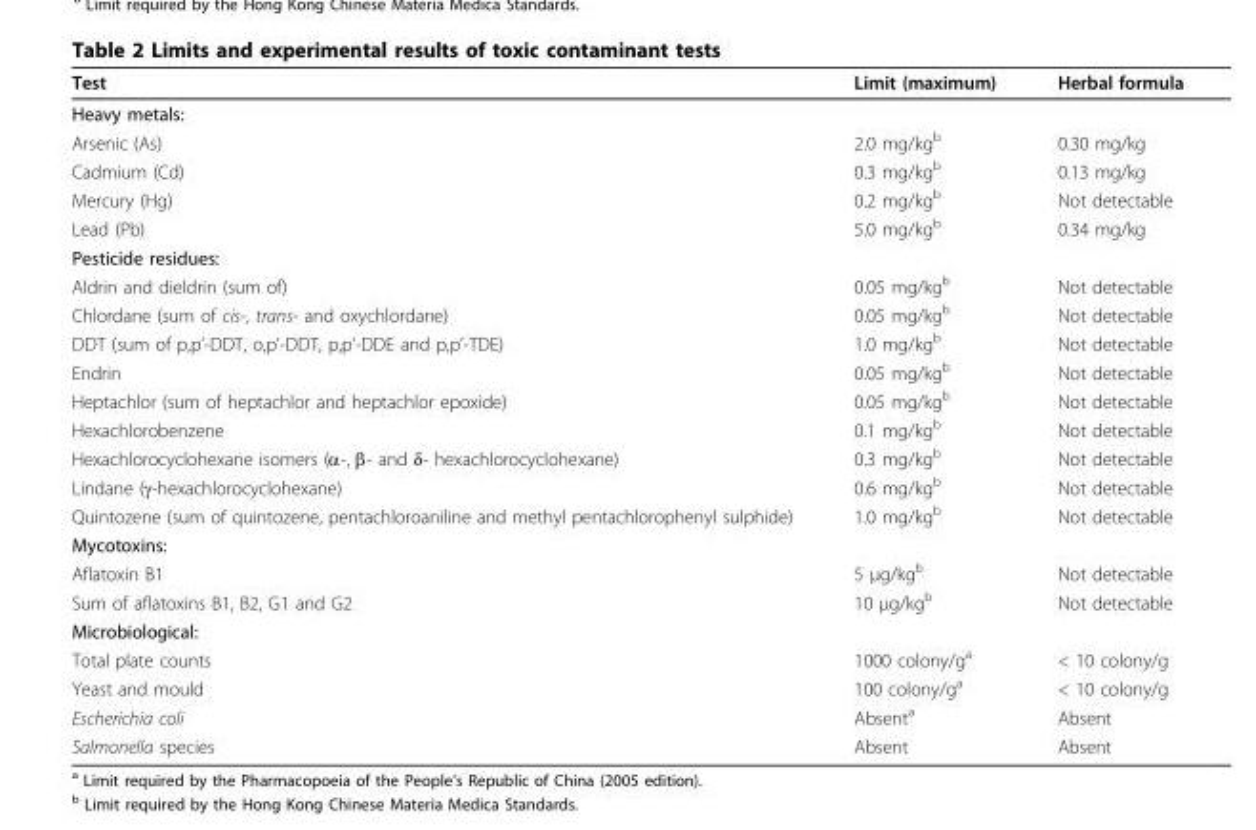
<table><thead><tr><td>Test</td><td>Limit (maximum)</td><td>Herbal formula</td></tr></thead><tbody><tr><td colspan="3">Heavy metals:</td></tr><tr><td>Arsenic (As)</td><td>2.0 mg/kg<sup>b</sup></td><td>0.30 mg/kg</td></tr><tr><td>Cadmium (Cd)</td><td>0.3 mg/kg<sup>b</sup></td><td>0.13 mg/kg</td></tr><tr><td>Mercury (Hg)</td><td>0.2 mg/kg<sup>b</sup></td><td>Not detectable</td></tr><tr><td>Lead (Pb)</td><td>5.0 mg/kg<sup>b</sup></td><td>0.34 mg/kg</td></tr><tr><td colspan="3">Pesticide residues:</td></tr><tr><td>Aldrin and dieldrin (sum of)</td><td>0.05 mg/kg<sup>b</sup></td><td>Not detectable</td></tr><tr><td>Chlordane (sum of cis-, trans- and oxychlordane)</td><td>0.05 mg/kg<sup>b</sup></td><td>Not detectable</td></tr><tr><td>DDT (sum of p,p’-DDT, o,p’-DDT, p,p’-DDE and p,p’-TDE)</td><td>1.0 mg/kg<sup>b</sup></td><td>Not detectable</td></tr><tr><td>Endrin</td><td>0.05 mg/kg<sup>b</sup></td><td>Not detectable</td></tr><tr><td>Heptachlor (sum of heptachlor and heptachlor epoxide)</td><td>0.05 mg/kg<sup>b</sup></td><td>Not detectable</td></tr><tr><td>Hexachlorobenzene</td><td>0.1 mg/kg<sup>b</sup></td><td>Not detectable</td></tr><tr><td>Hexachlorocyclohexane isomers (α-, β- and δ- hexachlorocyclohexane)</td><td>0.3 mg/kg<sup>b</sup></td><td>Not detectable</td></tr><tr><td>Lindane (γ-hexachlorocyclohexane)</td><td>0.6 mg/kg<sup>b</sup></td><td>Not detectable</td></tr><tr><td>Quintozene (sum of quintozene, pentachloroaniline and methyl pentachlorophenyl sulphide)</td><td>1.0 mg/kg<sup>b</sup></td><td>Not detectable</td></tr><tr><td colspan="3">Mycotoxins:</td></tr><tr><td>Aflatoxin B1</td><td>5 μg/kg<sup>b</sup></td><td>Not detectable</td></tr><tr><td>Sum of aflatoxins B1, B2, G1 and G2</td><td>10 μg/kg<sup>b</sup></td><td>Not detectable</td></tr><tr><td colspan="3">Microbiological:</td></tr><tr><td>Total plate counts</td><td>1000 colony/g<sup>a</sup></td><td>&lt; 10 colony/g</td></tr><tr><td>Yeast and mould</td><td>100 colony/g<sup>a</sup></td><td>&lt; 10 colony/g</td></tr><tr><td>Escherichia coli</td><td>Absent<sup>a</sup></td><td>Absent</td></tr><tr><td>Salmonella species</td><td>Absent</td><td>Absent</td></tr></tbody></table>